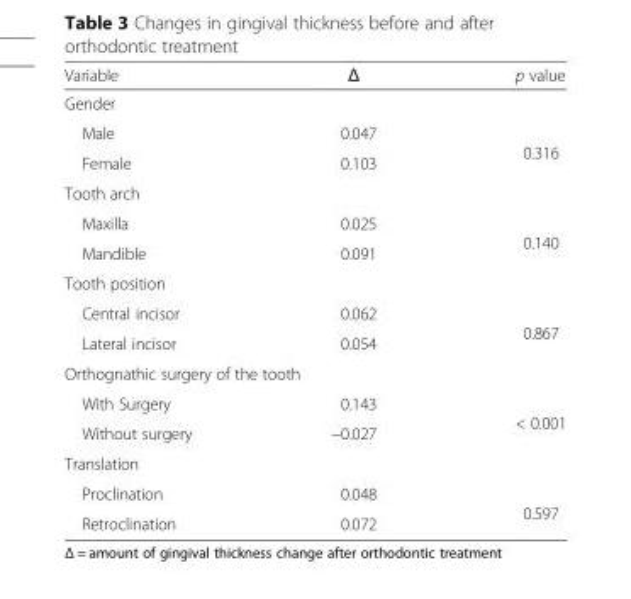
<table><thead><tr><td>Variable</td><td>Δ</td><td>p value</td></tr></thead><tbody><tr><td colspan="3">Gender</td></tr><tr><td>Male</td><td>0.047</td><td rowspan="2">0.316</td></tr><tr><td>Female</td><td>0.103</td></tr><tr><td colspan="3">Tooth arch</td></tr><tr><td>Maxilla</td><td>0.025</td><td rowspan="2">0.140</td></tr><tr><td>Mandible</td><td>0.091</td></tr><tr><td colspan="3">Tooth position</td></tr><tr><td>Central incisor</td><td>0.062</td><td rowspan="2">0.867</td></tr><tr><td>Lateral incisor</td><td>0.054</td></tr><tr><td colspan="3">Orthognathic surgery of the tooth</td></tr><tr><td>With Surgery</td><td>0.143</td><td rowspan="2">&lt; 0.001</td></tr><tr><td>Without surgery</td><td>−0.027</td></tr><tr><td colspan="3">Translation</td></tr><tr><td>Proclination</td><td>0.048</td><td rowspan="2">0.597</td></tr><tr><td>Retroclination</td><td>0.072</td></tr></tbody></table>